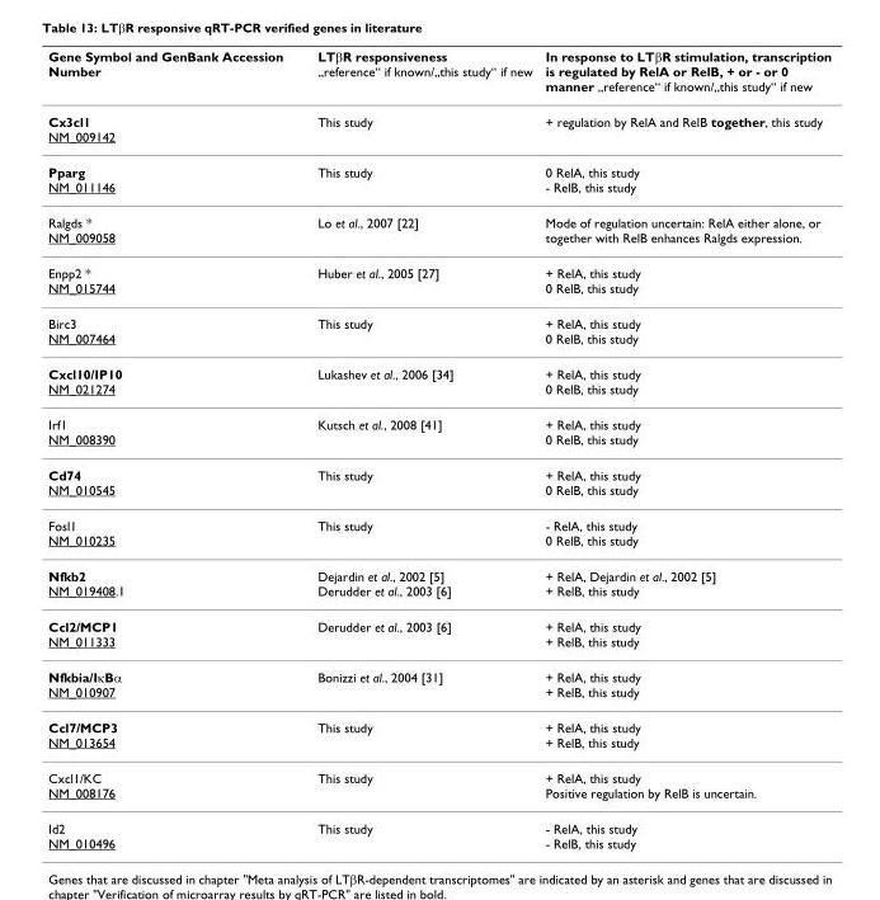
<table><thead><tr><td>Gene Symbol and GenBank Accession Number</td><td>LTβR responsiveness „reference“ if known/„this study“ if new</td><td>In response to LTβR stimulation, transcription is regulated by RelA or RelB, + or - or 0 manner „reference“ if known/„this study“ if new</td></tr></thead><tbody><tr><td>Cx3cl1 NM_009142</td><td>This study</td><td>+ regulation by RelA and RelB together, this study</td></tr><tr><td>Pparg NM_011146</td><td>This study</td><td>0 RelA, this study - RelB, this study</td></tr><tr><td>Ralgds * NM_009058</td><td>Lo et al., 2007 [22]</td><td>Mode of regulation uncertain: RelA either alone, or together with RelB enhances Ralgds expression.</td></tr><tr><td>Enpp2 * NM_015744</td><td>Huber et al., 2005 [27]</td><td>+ RelA, this study 0 RelB, this study</td></tr><tr><td>Birc3 NM_007464</td><td>This study</td><td>+ RelA, this study 0 RelB, this study</td></tr><tr><td>Cxcl10/IP10 NM_021274</td><td>Lukashev et al., 2006 [34]</td><td>+ RelA, this study 0 RelB, this study</td></tr><tr><td>Irf1 NM_008390</td><td>Kutsch et al., 2008 [41]</td><td>+ RelA, this study 0 RelB, this study</td></tr><tr><td>Cd74 NM_010545</td><td>This study</td><td>+ RelA, this study 0 RelB, this study</td></tr><tr><td>Fosl1 NM_010235</td><td>This study</td><td>- RelA, this study 0 RelB, this study</td></tr><tr><td>Nfkb2 NM_019408.1</td><td>Dejardin et al., 2002 [5] Derudder et al., 2003 [6]</td><td>+ RelA, Dejardin et al., 2002 [5] + RelB, this study</td></tr><tr><td>Ccl2/MCP1 NM_011333</td><td>Derudder et al., 2003 [6]</td><td>+ RelA, this study + RelB, this study</td></tr><tr><td>Nfkbia/IκBα NM_010907</td><td>Bonizzi et al., 2004 [31]</td><td>+ RelA, this study + RelB, this study</td></tr><tr><td>Ccl7/MCP3 NM_013654</td><td>This study</td><td>+ RelA, this study + RelB, this study</td></tr><tr><td>Cxcl1/KC NM_008176</td><td>This study</td><td>+ RelA, this study Positive regulation by RelB is uncertain.</td></tr><tr><td>Id2 NM_010496</td><td>This study</td><td>- RelA, this study - RelB, this study</td></tr></tbody></table>